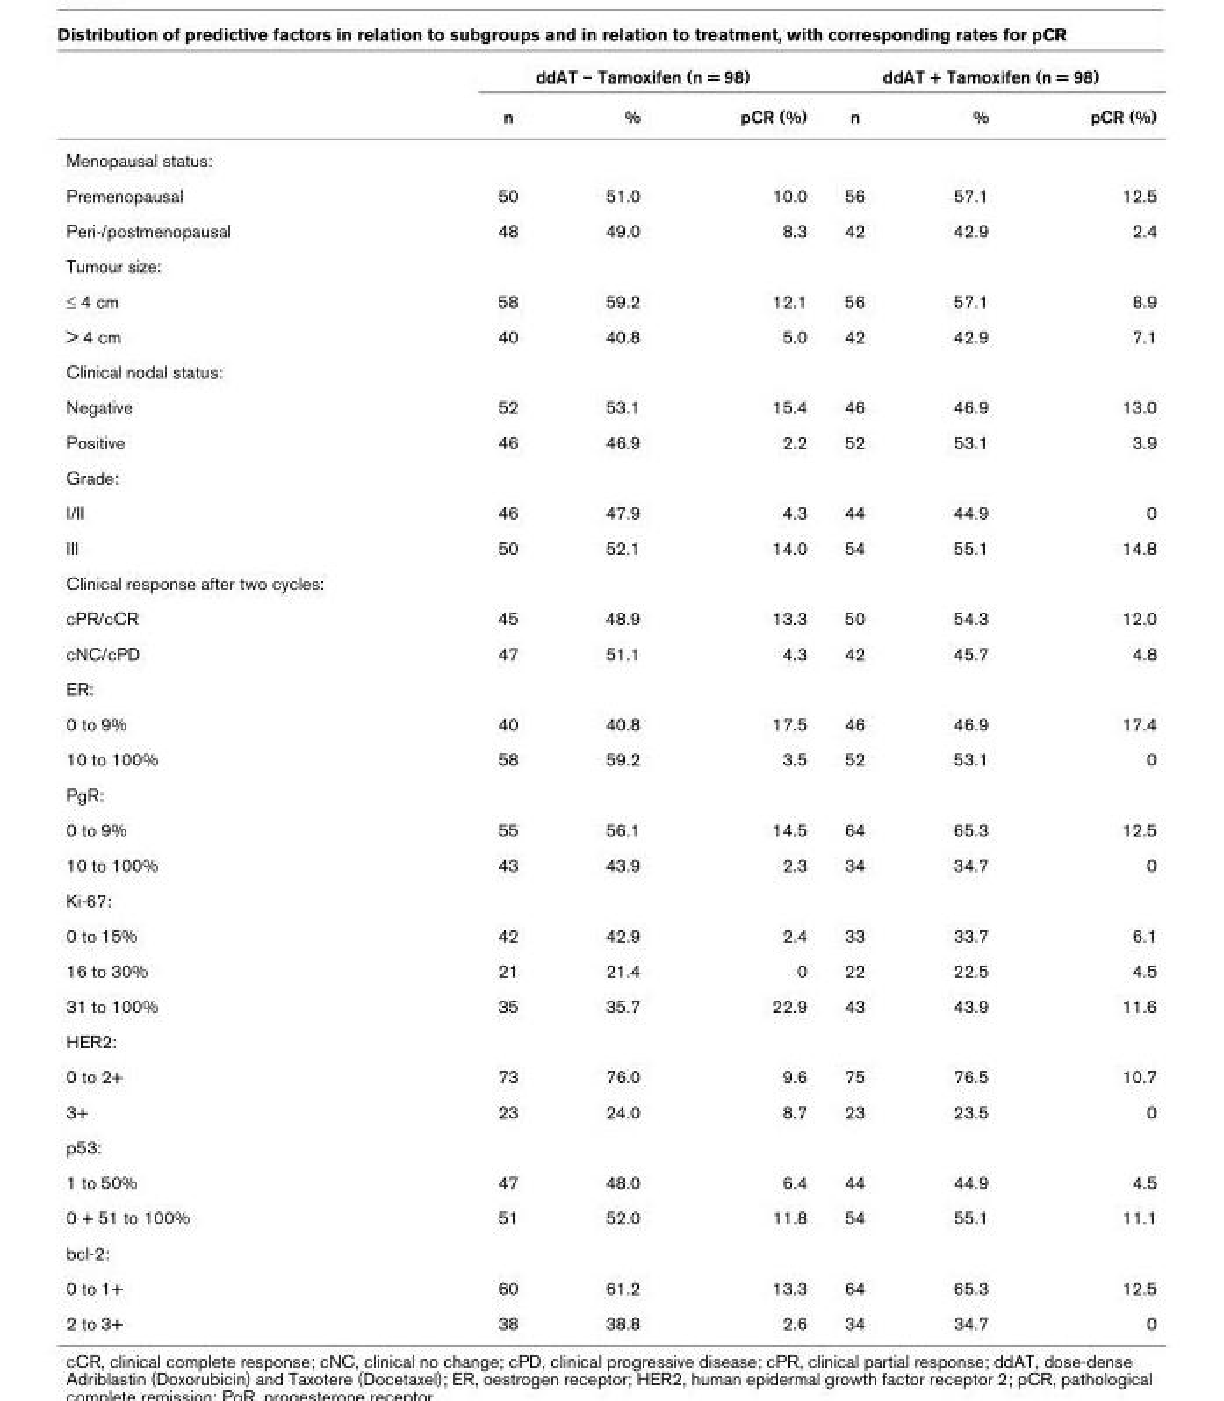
<table><thead><tr><td rowspan="2"></td><td colspan="3">ddAT – Tamoxifen (n = 98)</td><td colspan="3">ddAT + Tamoxifen (n = 98)</td></tr><tr><td>n</td><td>%</td><td>pCR (%)</td><td>n</td><td>%</td><td>pCR (%)</td></tr></thead><tbody><tr><td colspan="7">Menopausal status:</td></tr><tr><td>Premenopausal</td><td>50</td><td>51.0</td><td>10.0</td><td>56</td><td>57.1</td><td>12.5</td></tr><tr><td>Peri-/postmenopausal</td><td>48</td><td>49.0</td><td>8.3</td><td>42</td><td>42.9</td><td>2.4</td></tr><tr><td colspan="7">Tumour size:</td></tr><tr><td>≤ 4 cm</td><td>58</td><td>59.2</td><td>12.1</td><td>56</td><td>57.1</td><td>8.9</td></tr><tr><td>&gt; 4 cm</td><td>40</td><td>40.8</td><td>5.0</td><td>42</td><td>42.9</td><td>7.1</td></tr><tr><td colspan="7">Clinical nodal status:</td></tr><tr><td>Negative</td><td>52</td><td>53.1</td><td>15.4</td><td>46</td><td>46.9</td><td>13.0</td></tr><tr><td>Positive</td><td>46</td><td>46.9</td><td>2.2</td><td>52</td><td>53.1</td><td>3.9</td></tr><tr><td colspan="7">Grade:</td></tr><tr><td>I/II</td><td>46</td><td>47.9</td><td>4.3</td><td>44</td><td>44.9</td><td>0</td></tr><tr><td>III</td><td>50</td><td>52.1</td><td>14.0</td><td>54</td><td>55.1</td><td>14.8</td></tr><tr><td colspan="7">Clinical response after two cycles:</td></tr><tr><td>cPR/cCR</td><td>45</td><td>48.9</td><td>13.3</td><td>50</td><td>54.3</td><td>12.0</td></tr><tr><td>cNC/cPD</td><td>47</td><td>51.1</td><td>4.3</td><td>42</td><td>45.7</td><td>4.8</td></tr><tr><td colspan="7">ER:</td></tr><tr><td>0 to 9%</td><td>40</td><td>40.8</td><td>17.5</td><td>46</td><td>46.9</td><td>17.4</td></tr><tr><td>10 to 100%</td><td>58</td><td>59.2</td><td>3.5</td><td>52</td><td>53.1</td><td>0</td></tr><tr><td colspan="7">PgR:</td></tr><tr><td>0 to 9%</td><td>55</td><td>56.1</td><td>14.5</td><td>64</td><td>65.3</td><td>12.5</td></tr><tr><td>10 to 100%</td><td>43</td><td>43.9</td><td>2.3</td><td>34</td><td>34.7</td><td>0</td></tr><tr><td colspan="7">Ki-67:</td></tr><tr><td>0 to 15%</td><td>42</td><td>42.9</td><td>2.4</td><td>33</td><td>33.7</td><td>6.1</td></tr><tr><td>16 to 30%</td><td>21</td><td>21.4</td><td>0</td><td>22</td><td>22.5</td><td>4.5</td></tr><tr><td>31 to 100%</td><td>35</td><td>35.7</td><td>22.9</td><td>43</td><td>43.9</td><td>11.6</td></tr><tr><td colspan="7">HER2:</td></tr><tr><td>0 to 2+</td><td>73</td><td>76.0</td><td>9.6</td><td>75</td><td>76.5</td><td>10.7</td></tr><tr><td>3+</td><td>23</td><td>24.0</td><td>8.7</td><td>23</td><td>23.5</td><td>0</td></tr><tr><td colspan="7">p53:</td></tr><tr><td>1 to 50%</td><td>47</td><td>48.0</td><td>6.4</td><td>44</td><td>44.9</td><td>4.5</td></tr><tr><td>0 + 51 to 100%</td><td>51</td><td>52.0</td><td>11.8</td><td>54</td><td>55.1</td><td>11.1</td></tr><tr><td colspan="7">bcl-2:</td></tr><tr><td>0 to 1+</td><td>60</td><td>61.2</td><td>13.3</td><td>64</td><td>65.3</td><td>12.5</td></tr><tr><td>2 to 3+</td><td>38</td><td>38.8</td><td>2.6</td><td>34</td><td>34.7</td><td>0</td></tr></tbody></table>